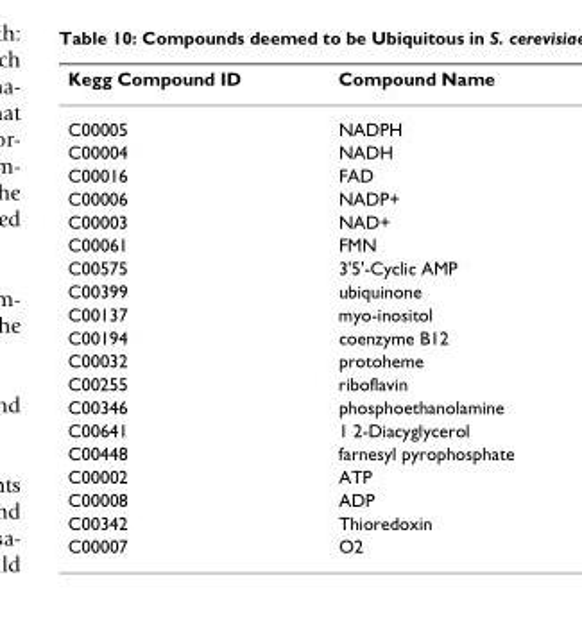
<table><thead><tr><td>Kegg Compound ID</td><td>Compound Name</td></tr></thead><tbody><tr><td>C00005</td><td>NADPH</td></tr><tr><td>C00004</td><td>NADH</td></tr><tr><td>C00016</td><td>FAD</td></tr><tr><td>C00006</td><td>NADP+</td></tr><tr><td>C00003</td><td>NAD+</td></tr><tr><td>C00061</td><td>FMN</td></tr><tr><td>C00575</td><td>3&#x27;5&#x27;-Cyclic AMP</td></tr><tr><td>C00399</td><td>ubiquinone</td></tr><tr><td>C00137</td><td>myo-inositol</td></tr><tr><td>C00194</td><td>coenzyme B12</td></tr><tr><td>C00032</td><td>protoheme</td></tr><tr><td>C00255</td><td>riboflavin</td></tr><tr><td>C00346</td><td>phosphoethanolamine</td></tr><tr><td>C00641</td><td>1 2-Diacyglycerol</td></tr><tr><td>C00448</td><td>farnesyl pyrophosphate</td></tr><tr><td>C00002</td><td>ATP</td></tr><tr><td>C00008</td><td>ADP</td></tr><tr><td>C00342</td><td>Thioredoxin</td></tr><tr><td>C00007</td><td>O2</td></tr></tbody></table>